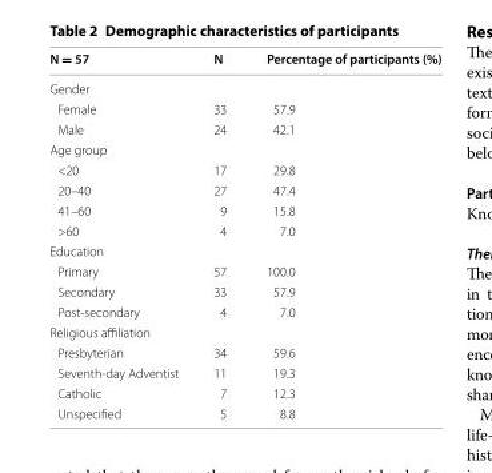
<table><thead><tr><td>N = 57</td><td>N</td><td>Percentage of participants (%)</td></tr></thead><tbody><tr><td colspan="3">Gender</td></tr><tr><td>Female</td><td>33</td><td>57.9</td></tr><tr><td>Male</td><td>24</td><td>42.1</td></tr><tr><td colspan="3">Age group</td></tr><tr><td>&lt;20</td><td>17</td><td>29.8</td></tr><tr><td>20–40</td><td>27</td><td>47.4</td></tr><tr><td>41–60</td><td>9</td><td>15.8</td></tr><tr><td>&gt;60</td><td>4</td><td>7.0</td></tr><tr><td colspan="3">Education</td></tr><tr><td>Primary</td><td>57</td><td>100.0</td></tr><tr><td>Secondary</td><td>33</td><td>57.9</td></tr><tr><td>Post-secondary</td><td>4</td><td>7.0</td></tr><tr><td colspan="3">Religious affiliation</td></tr><tr><td>Presbyterian</td><td>34</td><td>59.6</td></tr><tr><td>Seventh-day Adventist</td><td>11</td><td>19.3</td></tr><tr><td>Catholic</td><td>7</td><td>12.3</td></tr><tr><td>Unspecified</td><td>5</td><td>8.8</td></tr></tbody></table>